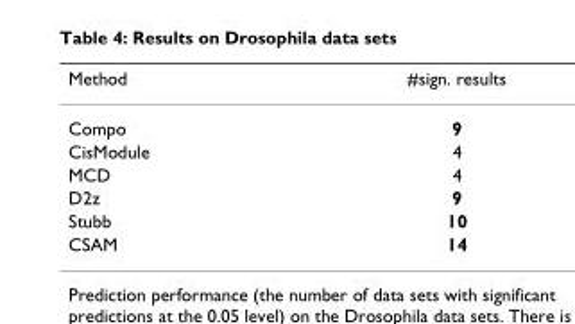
<table><thead><tr><td>Method</td><td>#sign. results</td></tr></thead><tbody><tr><td>Compo</td><td>9</td></tr><tr><td>CisModule</td><td>4</td></tr><tr><td>MCD</td><td>4</td></tr><tr><td>D2z</td><td>9</td></tr><tr><td>Stubb</td><td>10</td></tr><tr><td>CSAM</td><td>14</td></tr></tbody></table>